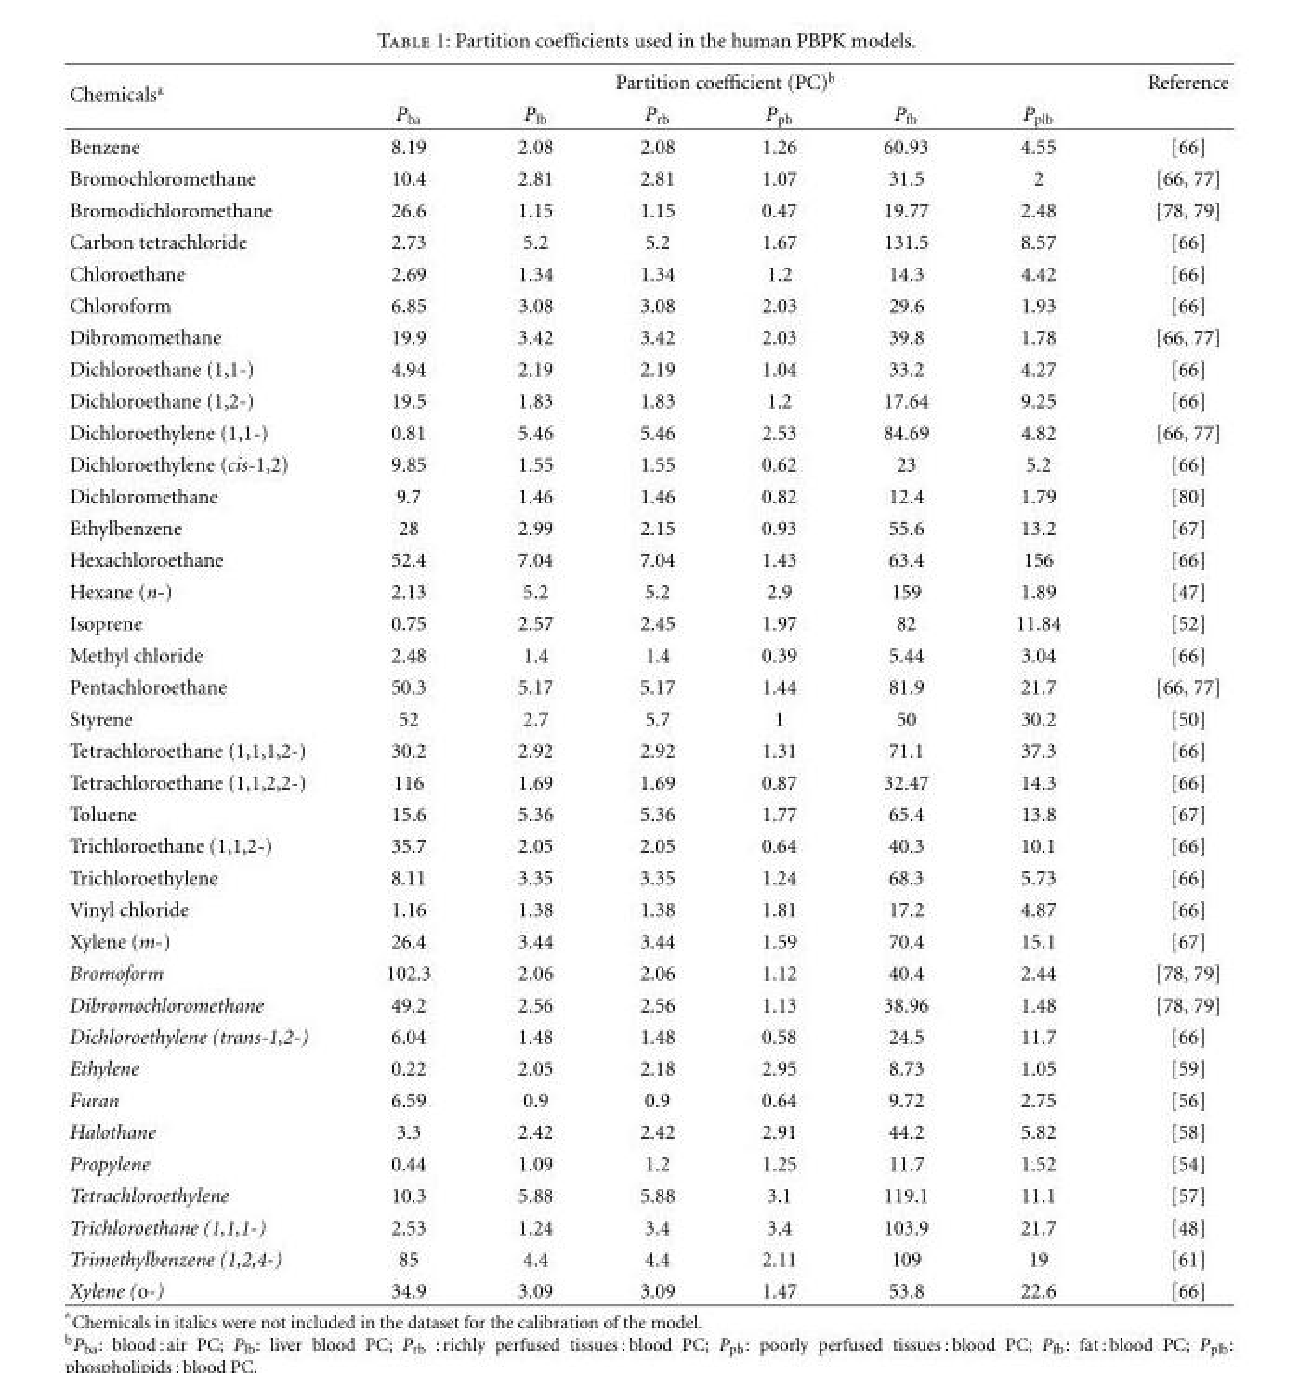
<table><thead><tr><td rowspan="2">Chemicals<sup>a</sup></td><td colspan="6">Partition coefficient (PC)<sup>b</sup></td><td rowspan="2">Reference</td></tr><tr><td>P<sub>ba</sub></td><td>P<sub>lb</sub></td><td>P<sub>rb</sub></td><td>P<sub>pb</sub></td><td>P<sub>fb</sub></td><td>P<sub>plb</sub></td></tr></thead><tbody><tr><td>Benzene</td><td>8.19</td><td>2.08</td><td>2.08</td><td>1.26</td><td>60.93</td><td>4.55</td><td>[66]</td></tr><tr><td>Bromochloromethane</td><td>10.4</td><td>2.81</td><td>2.81</td><td>1.07</td><td>31.5</td><td>2</td><td>[66, 77]</td></tr><tr><td>Bromodichloromethane</td><td>26.6</td><td>1.15</td><td>1.15</td><td>0.47</td><td>19.77</td><td>2.48</td><td>[78, 79]</td></tr><tr><td>Carbon tetrachloride</td><td>2.73</td><td>5.2</td><td>5.2</td><td>1.67</td><td>131.5</td><td>8.57</td><td>[66]</td></tr><tr><td>Chloroethane</td><td>2.69</td><td>1.34</td><td>1.34</td><td>1.2</td><td>14.3</td><td>4.42</td><td>[66]</td></tr><tr><td>Chloroform</td><td>6.85</td><td>3.08</td><td>3.08</td><td>2.03</td><td>29.6</td><td>1.93</td><td>[66]</td></tr><tr><td>Dibromomethane</td><td>19.9</td><td>3.42</td><td>3.42</td><td>2.03</td><td>39.8</td><td>1.78</td><td>[66, 77]</td></tr><tr><td>Dichloroethane (1,1-)</td><td>4.94</td><td>2.19</td><td>2.19</td><td>1.04</td><td>33.2</td><td>4.27</td><td>[66]</td></tr><tr><td>Dichloroethane (1,2-)</td><td>19.5</td><td>1.83</td><td>1.83</td><td>1.2</td><td>17.64</td><td>9.25</td><td>[66]</td></tr><tr><td>Dichloroethylene (1,1-)</td><td>0.81</td><td>5.46</td><td>5.46</td><td>2.53</td><td>84.69</td><td>4.82</td><td>[66, 77]</td></tr><tr><td>Dichloroethylene (cis-1,2)</td><td>9.85</td><td>1.55</td><td>1.55</td><td>0.62</td><td>23</td><td>5.2</td><td>[66]</td></tr><tr><td>Dichloromethane</td><td>9.7</td><td>1.46</td><td>1.46</td><td>0.82</td><td>12.4</td><td>1.79</td><td>[80]</td></tr><tr><td>Ethylbenzene</td><td>28</td><td>2.99</td><td>2.15</td><td>0.93</td><td>55.6</td><td>13.2</td><td>[67]</td></tr><tr><td>Hexachloroethane</td><td>52.4</td><td>7.04</td><td>7.04</td><td>1.43</td><td>63.4</td><td>156</td><td>[66]</td></tr><tr><td>Hexane (n-)</td><td>2.13</td><td>5.2</td><td>5.2</td><td>2.9</td><td>159</td><td>1.89</td><td>[47]</td></tr><tr><td>Isoprene</td><td>0.75</td><td>2.57</td><td>2.45</td><td>1.97</td><td>82</td><td>11.84</td><td>[52]</td></tr><tr><td>Methyl chloride</td><td>2.48</td><td>1.4</td><td>1.4</td><td>0.39</td><td>5.44</td><td>3.04</td><td>[66]</td></tr><tr><td>Pentachloroethane</td><td>50.3</td><td>5.17</td><td>5.17</td><td>1.44</td><td>81.9</td><td>21.7</td><td>[66, 77]</td></tr><tr><td>Styrene</td><td>52</td><td>2.7</td><td>5.7</td><td>1</td><td>50</td><td>30.2</td><td>[50]</td></tr><tr><td>Tetrachloroethane (1,1,1,2-)</td><td>30.2</td><td>2.92</td><td>2.92</td><td>1.31</td><td>71.1</td><td>37.3</td><td>[66]</td></tr><tr><td>Tetrachloroethane (1,1,2,2-)</td><td>116</td><td>1.69</td><td>1.69</td><td>0.87</td><td>32.47</td><td>14.3</td><td>[66]</td></tr><tr><td>Toluene</td><td>15.6</td><td>5.36</td><td>5.36</td><td>1.77</td><td>65.4</td><td>13.8</td><td>[67]</td></tr><tr><td>Trichloroethane (1,1,2-)</td><td>35.7</td><td>2.05</td><td>2.05</td><td>0.64</td><td>40.3</td><td>10.1</td><td>[66]</td></tr><tr><td>Trichloroethylene</td><td>8.11</td><td>3.35</td><td>3.35</td><td>1.24</td><td>68.3</td><td>5.73</td><td>[66]</td></tr><tr><td>Vinyl chloride</td><td>1.16</td><td>1.38</td><td>1.38</td><td>1.81</td><td>17.2</td><td>4.87</td><td>[66]</td></tr><tr><td>Xylene (m-)</td><td>26.4</td><td>3.44</td><td>3.44</td><td>1.59</td><td>70.4</td><td>15.1</td><td>[67]</td></tr><tr><td>Bromoform</td><td>102.3</td><td>2.06</td><td>2.06</td><td>1.12</td><td>40.4</td><td>2.44</td><td>[78, 79]</td></tr><tr><td>Dibromochloromethane</td><td>49.2</td><td>2.56</td><td>2.56</td><td>1.13</td><td>38.96</td><td>1.48</td><td>[78, 79]</td></tr><tr><td>Dichloroethylene (trans-1,2-)</td><td>6.04</td><td>1.48</td><td>1.48</td><td>0.58</td><td>24.5</td><td>11.7</td><td>[66]</td></tr><tr><td>Ethylene</td><td>0.22</td><td>2.05</td><td>2.18</td><td>2.95</td><td>8.73</td><td>1.05</td><td>[59]</td></tr><tr><td>Furan</td><td>6.59</td><td>0.9</td><td>0.9</td><td>0.64</td><td>9.72</td><td>2.75</td><td>[56]</td></tr><tr><td>Halothane</td><td>3.3</td><td>2.42</td><td>2.42</td><td>2.91</td><td>44.2</td><td>5.82</td><td>[58]</td></tr><tr><td>Propylene</td><td>0.44</td><td>1.09</td><td>1.2</td><td>1.25</td><td>11.7</td><td>1.52</td><td>[54]</td></tr><tr><td>Tetrachloroethylene</td><td>10.3</td><td>5.88</td><td>5.88</td><td>3.1</td><td>119.1</td><td>11.1</td><td>[57]</td></tr><tr><td>Trichloroethane (1,1,1-)</td><td>2.53</td><td>1.24</td><td>3.4</td><td>3.4</td><td>103.9</td><td>21.7</td><td>[48]</td></tr><tr><td>Trimethylbenzene (1,2,4-)</td><td>85</td><td>4.4</td><td>4.4</td><td>2.11</td><td>109</td><td>19</td><td>[61]</td></tr><tr><td>Xylene (o-)</td><td>34.9</td><td>3.09</td><td>3.09</td><td>1.47</td><td>53.8</td><td>22.6</td><td>[66]</td></tr></tbody></table>